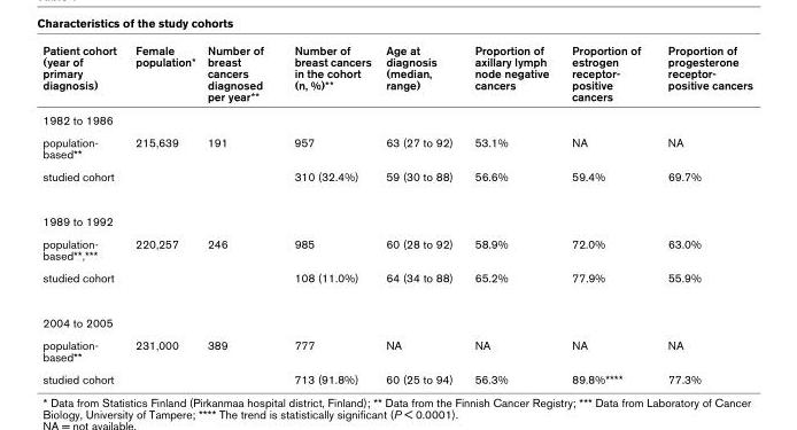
<table><thead><tr><td>Patient cohort (year of primary diagnosis)</td><td>Female population*</td><td>Number of breast cancers diagnosed per year**</td><td>Number of breast cancers in the cohort (n, %)**</td><td>Age at diagnosis (median, range)</td><td>Proportion of axillary lymph node negative cancers</td><td>Proportion of estrogen receptor- positive cancers</td><td>Proportion of progesterone receptor- positive cancers</td></tr></thead><tbody><tr><td colspan="8">1982 to 1986</td></tr><tr><td>population- based**</td><td>215,639</td><td>191</td><td>957</td><td>63 (27 to 92)</td><td>53.1%</td><td>NA</td><td>NA</td></tr><tr><td>studied cohort</td><td></td><td></td><td>310 (32.4%)</td><td>59 (30 to 88)</td><td>56.6%</td><td>59.4%</td><td>69.7%</td></tr><tr><td colspan="8">1989 to 1992</td></tr><tr><td>population- based**,***</td><td>220,257</td><td>246</td><td>985</td><td>60 (28 to 92)</td><td>58.9%</td><td>72.0%</td><td>63.0%</td></tr><tr><td>studied cohort</td><td></td><td></td><td>108 (11.0%)</td><td>64 (34 to 88)</td><td>65.2%</td><td>77.9%</td><td>55.9%</td></tr><tr><td colspan="8">2004 to 2005</td></tr><tr><td>population- based**</td><td>231,000</td><td>389</td><td>777</td><td>NA</td><td>NA</td><td>NA</td><td>NA</td></tr><tr><td>studied cohort</td><td></td><td></td><td>713 (91.8%)</td><td>60 (25 to 94)</td><td>56.3%</td><td>89.8%****</td><td>77.3%</td></tr></tbody></table>